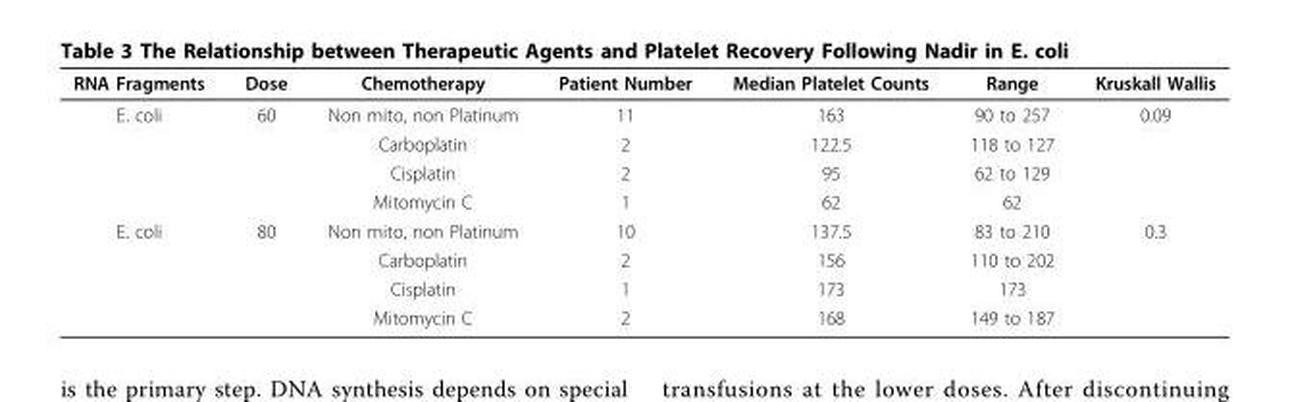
<table><thead><tr><td>RNA Fragments</td><td>Dose</td><td>Chemotherapy</td><td>Patient Number</td><td>Median Platelet Counts</td><td>Range</td><td>Kruskall Wallis</td></tr></thead><tbody><tr><td rowspan="4">E. coli</td><td>60</td><td>Non mito, non Platinum</td><td>11</td><td>163</td><td>90 to 257</td><td>0.09</td></tr><tr><td></td><td>Carboplatin</td><td>2</td><td>122.5</td><td>118 to 127</td><td></td></tr><tr><td></td><td>Cisplatin</td><td>2</td><td>95</td><td>62 to 129</td><td></td></tr><tr><td></td><td>Mitomycin C</td><td>1</td><td>62</td><td>62</td><td></td></tr><tr><td rowspan="4">E. coli</td><td>80</td><td>Non mito, non Platinum</td><td>10</td><td>137.5</td><td>83 to 210</td><td>0.3</td></tr><tr><td></td><td>Carboplatin</td><td>2</td><td>156</td><td>110 to 202</td><td></td></tr><tr><td></td><td>Cisplatin</td><td>1</td><td>173</td><td>173</td><td></td></tr><tr><td></td><td>Mitomycin C</td><td>2</td><td>168</td><td>149 to 187</td><td></td></tr></tbody></table>